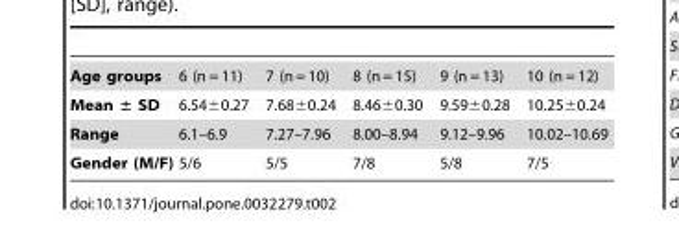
<table><tbody><tr><td>Age groups</td><td>6 (n = 11)</td><td>7 (n = 10)</td><td>8 (n = 15)</td><td>9 (n = 13)</td><td>10 (n = 12)</td></tr><tr><td>Mean ± SD</td><td>6.54±0.27</td><td>7.68±0.24</td><td>8.46±0.30</td><td>9.59±0.28</td><td>10.25±0.24</td></tr><tr><td>Range</td><td>6.1–6.9</td><td>7.27–7.96</td><td>8.00–8.94</td><td>9.12–9.96</td><td>10.02–10.69</td></tr><tr><td>Gender (M/F)</td><td>5/6</td><td>5/5</td><td>7/8</td><td>5/8</td><td>7/5</td></tr></tbody></table>